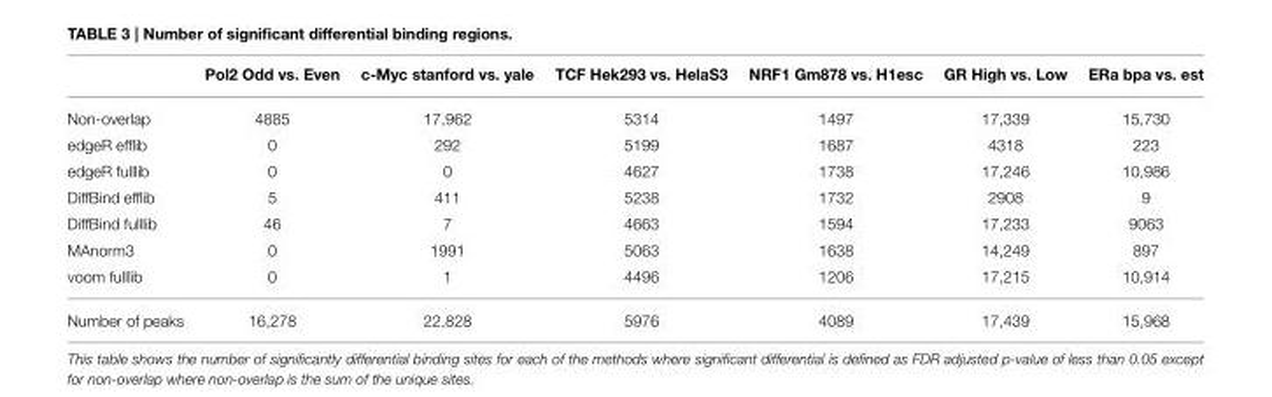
<table><thead><tr><td></td><td>Pol2 Odd vs. Even</td><td>c-Myc stanford vs. yale</td><td>TCF Hek293 vs. HelaS3</td><td>NRF1 Gm878 vs. H1esc</td><td>GR High vs. Low</td><td>ERa bpa vs. est</td></tr></thead><tbody><tr><td>Non-overlap</td><td>4885</td><td>17,962</td><td>5314</td><td>1497</td><td>17,339</td><td>15,730</td></tr><tr><td>edgeR efflib</td><td>0</td><td>292</td><td>5199</td><td>1687</td><td>4318</td><td>223</td></tr><tr><td>edgeR fulllib</td><td>0</td><td>0</td><td>4627</td><td>1738</td><td>17,246</td><td>10,986</td></tr><tr><td>DiffBind efflib</td><td>5</td><td>411</td><td>5238</td><td>1732</td><td>2908</td><td>9</td></tr><tr><td>DiffBind fulllib</td><td>46</td><td>7</td><td>4663</td><td>1594</td><td>17,233</td><td>9063</td></tr><tr><td>MAnorm3</td><td>0</td><td>1991</td><td>5063</td><td>1638</td><td>14,249</td><td>897</td></tr><tr><td>voom fulllib</td><td>0</td><td>1</td><td>4496</td><td>1206</td><td>17,215</td><td>10,914</td></tr><tr><td>Number of peaks</td><td>16,278</td><td>22,828</td><td>5976</td><td>4089</td><td>17,439</td><td>15,968</td></tr></tbody></table>